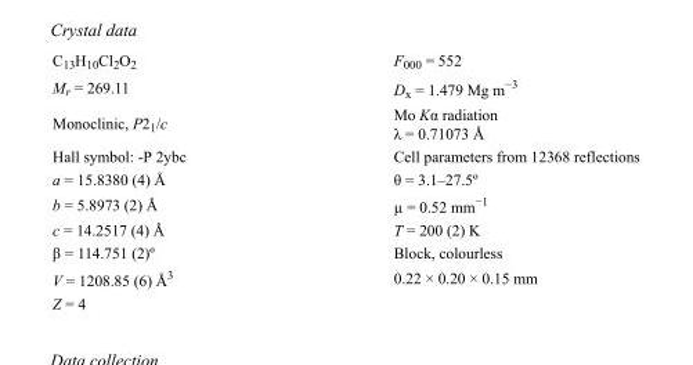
<table><tbody><tr><td>C<sub>13</sub>H<sub>10</sub>Cl<sub>2</sub>O<sub>2</sub></td><td>F<sub>000</sub> = 552</td></tr><tr><td>M<sub>r</sub> = 269.11</td><td>D<sub>x</sub> = 1.479 Mg m<sup>−3</sup></td></tr><tr><td>Monoclinic, P2<sub>1</sub>/c</td><td>Mo Kα radiation λ = 0.71073 Å</td></tr><tr><td>Hall symbol: -P 2ybc</td><td>Cell parameters from 12368 reflections</td></tr><tr><td>a = 15.8380 (4) Å</td><td>θ = 3.1–27.5º</td></tr><tr><td>b = 5.8973 (2) Å</td><td>µ = 0.52 mm<sup>−1</sup></td></tr><tr><td>c = 14.2517 (4) Å</td><td>T = 200 (2) K</td></tr><tr><td>β = 114.751 (2)º</td><td>Block, colourless</td></tr><tr><td>V = 1208.85 (6) Å<sup>3</sup></td><td>0.22 × 0.20 × 0.15 mm</td></tr><tr><td>Z = 4</td><td></td></tr></tbody></table>